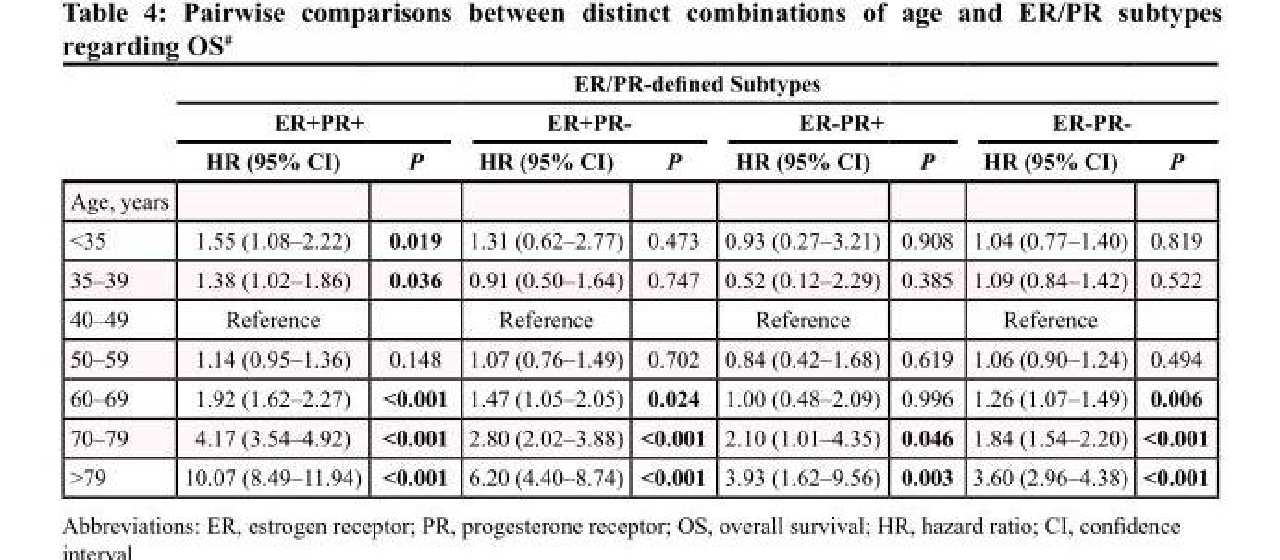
<table><thead><tr><td rowspan="3"></td><td colspan="8">ER/PR-defined Subtypes</td></tr><tr><td colspan="2">ER+PR+</td><td colspan="2">ER+PR-</td><td colspan="2">ER-PR+</td><td colspan="2">ER-PR-</td></tr><tr><td>HR (95% CI)</td><td>P</td><td>HR (95% CI)</td><td>P</td><td>HR (95% CI)</td><td>P</td><td>HR (95% CI)</td><td>P</td></tr></thead><tbody><tr><td colspan="9">Age, years</td></tr><tr><td>&lt;35</td><td>1.55 (1.08–2.22)</td><td>0.019</td><td>1.31 (0.62–2.77)</td><td>0.473</td><td>0.93 (0.27–3.21)</td><td>0.908</td><td>1.04 (0.77–1.40)</td><td>0.819</td></tr><tr><td>35–39</td><td>1.38 (1.02–1.86)</td><td>0.036</td><td>0.91 (0.50–1.64)</td><td>0.747</td><td>0.52 (0.12–2.29)</td><td>0.385</td><td>1.09 (0.84–1.42)</td><td>0.522</td></tr><tr><td>40–49</td><td>Reference</td><td></td><td>Reference</td><td></td><td>Reference</td><td></td><td>Reference</td><td></td></tr><tr><td>50–59</td><td>1.14 (0.95–1.36)</td><td>0.148</td><td>1.07 (0.76–1.49)</td><td>0.702</td><td>0.84 (0.42–1.68)</td><td>0.619</td><td>1.06 (0.90–1.24)</td><td>0.494</td></tr><tr><td>60–69</td><td>1.92 (1.62–2.27)</td><td>&lt;0.001</td><td>1.47 (1.05–2.05)</td><td>0.024</td><td>1.00 (0.48–2.09)</td><td>0.996</td><td>1.26 (1.07–1.49)</td><td>0.006</td></tr><tr><td>70–79</td><td>4.17 (3.54–4.92)</td><td>&lt;0.001</td><td>2.80 (2.02–3.88)</td><td>&lt;0.001</td><td>2.10 (1.01–4.35)</td><td>0.046</td><td>1.84 (1.54–2.20)</td><td>&lt;0.001</td></tr><tr><td>&gt;79</td><td>10.07 (8.49–11.94)</td><td>&lt;0.001</td><td>6.20 (4.40–8.74)</td><td>&lt;0.001</td><td>3.93 (1.62–9.56)</td><td>0.003</td><td>3.60 (2.96–4.38)</td><td>&lt;0.001</td></tr></tbody></table>